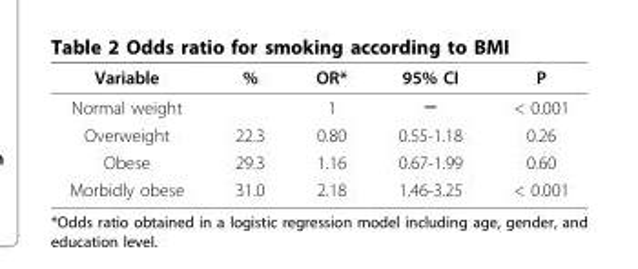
<table><thead><tr><td>Variable</td><td>%</td><td>OR*</td><td>95% CI</td><td>P</td></tr></thead><tbody><tr><td>Normal weight</td><td></td><td>1</td><td>─</td><td>&lt; 0.001</td></tr><tr><td>Overweight</td><td>22.3</td><td>0.80</td><td>0.55-1.18</td><td>0.26</td></tr><tr><td>Obese</td><td>29.3</td><td>1.16</td><td>0.67-1.99</td><td>0.60</td></tr><tr><td>Morbidly obese</td><td>31.0</td><td>2.18</td><td>1.46-3.25</td><td>&lt; 0.001</td></tr></tbody></table>